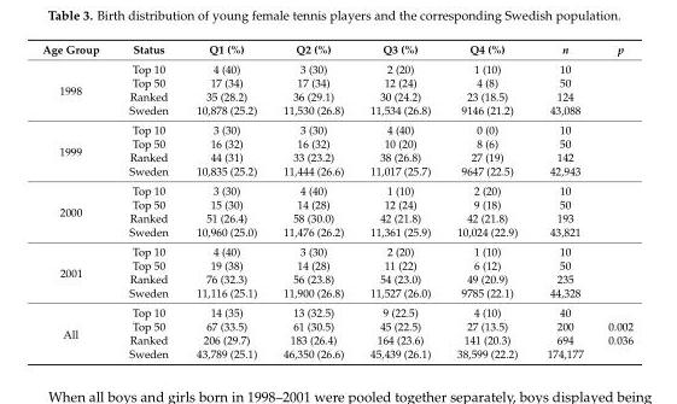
<table><thead><tr><td>Age Group</td><td>Status</td><td>Q1 (%)</td><td>Q2 (%)</td><td>Q3 (%)</td><td>Q4 (%)</td><td>n</td><td>p</td></tr></thead><tbody><tr><td rowspan="4">1998</td><td>Top 10</td><td>4 (40)</td><td>3 (30)</td><td>2 (20)</td><td>1 (10)</td><td>10</td><td></td></tr><tr><td>Top 50</td><td>17 (34)</td><td>17 (34)</td><td>12 (24)</td><td>4 (8)</td><td>50</td><td></td></tr><tr><td>Ranked</td><td>35 (28.2)</td><td>36 (29.1)</td><td>30 (24.2)</td><td>23 (18.5)</td><td>124</td><td></td></tr><tr><td>Sweden</td><td>10,878 (25.2)</td><td>11,530 (26.8)</td><td>11,534 (26.8)</td><td>9146 (21.2)</td><td>43,088</td><td></td></tr><tr><td rowspan="4">1999</td><td>Top 10</td><td>3 (30)</td><td>3 (30)</td><td>4 (40)</td><td>0 (0)</td><td>10</td><td></td></tr><tr><td>Top 50</td><td>16 (32)</td><td>16 (32)</td><td>10 (20)</td><td>8 (6)</td><td>50</td><td></td></tr><tr><td>Ranked</td><td>44 (31)</td><td>33 (23.2)</td><td>38 (26.8)</td><td>27 (19)</td><td>142</td><td></td></tr><tr><td>Sweden</td><td>10,835 (25.2)</td><td>11,444 (26.6)</td><td>11,017 (25.7)</td><td>9647 (22.5)</td><td>42,943</td><td></td></tr><tr><td rowspan="4">2000</td><td>Top 10</td><td>3 (30)</td><td>4 (40)</td><td>1 (10)</td><td>2 (20)</td><td>10</td><td></td></tr><tr><td>Top 50</td><td>15 (30)</td><td>14 (28)</td><td>12 (24)</td><td>9 (18)</td><td>50</td><td></td></tr><tr><td>Ranked</td><td>51 (26.4)</td><td>58 (30.0)</td><td>42 (21.8)</td><td>42 (21.8)</td><td>193</td><td></td></tr><tr><td>Sweden</td><td>10,960 (25.0)</td><td>11,476 (26.2)</td><td>11,361 (25.9)</td><td>10,024 (22.9)</td><td>43,821</td><td></td></tr><tr><td rowspan="4">2001</td><td>Top 10</td><td>4 (40)</td><td>3 (30)</td><td>2 (20)</td><td>1 (10)</td><td>10</td><td></td></tr><tr><td>Top 50</td><td>19 (38)</td><td>14 (28)</td><td>11 (22)</td><td>6 (12)</td><td>50</td><td></td></tr><tr><td>Ranked</td><td>76 (32.3)</td><td>56 (23.8)</td><td>54 (23.0)</td><td>49 (20.9)</td><td>235</td><td></td></tr><tr><td>Sweden</td><td>11,116 (25.1)</td><td>11,900 (26.8)</td><td>11,527 (26.0)</td><td>9785 (22.1)</td><td>44,328</td><td></td></tr><tr><td rowspan="4">All</td><td>Top 10</td><td>14 (35)</td><td>13 (32.5)</td><td>9 (22.5)</td><td>4 (10)</td><td>40</td><td></td></tr><tr><td>Top 50</td><td>67 (33.5)</td><td>61 (30.5)</td><td>45 (22.5)</td><td>27 (13.5)</td><td>200</td><td>0.002</td></tr><tr><td>Ranked</td><td>206 (29.7)</td><td>183 (26.4)</td><td>164 (23.6)</td><td>141 (20.3)</td><td>694</td><td>0.036</td></tr><tr><td>Sweden</td><td>43,789 (25.1)</td><td>46,350 (26.6)</td><td>45,439 (26.1)</td><td>38,599 (22.2)</td><td>174,177</td><td></td></tr></tbody></table>